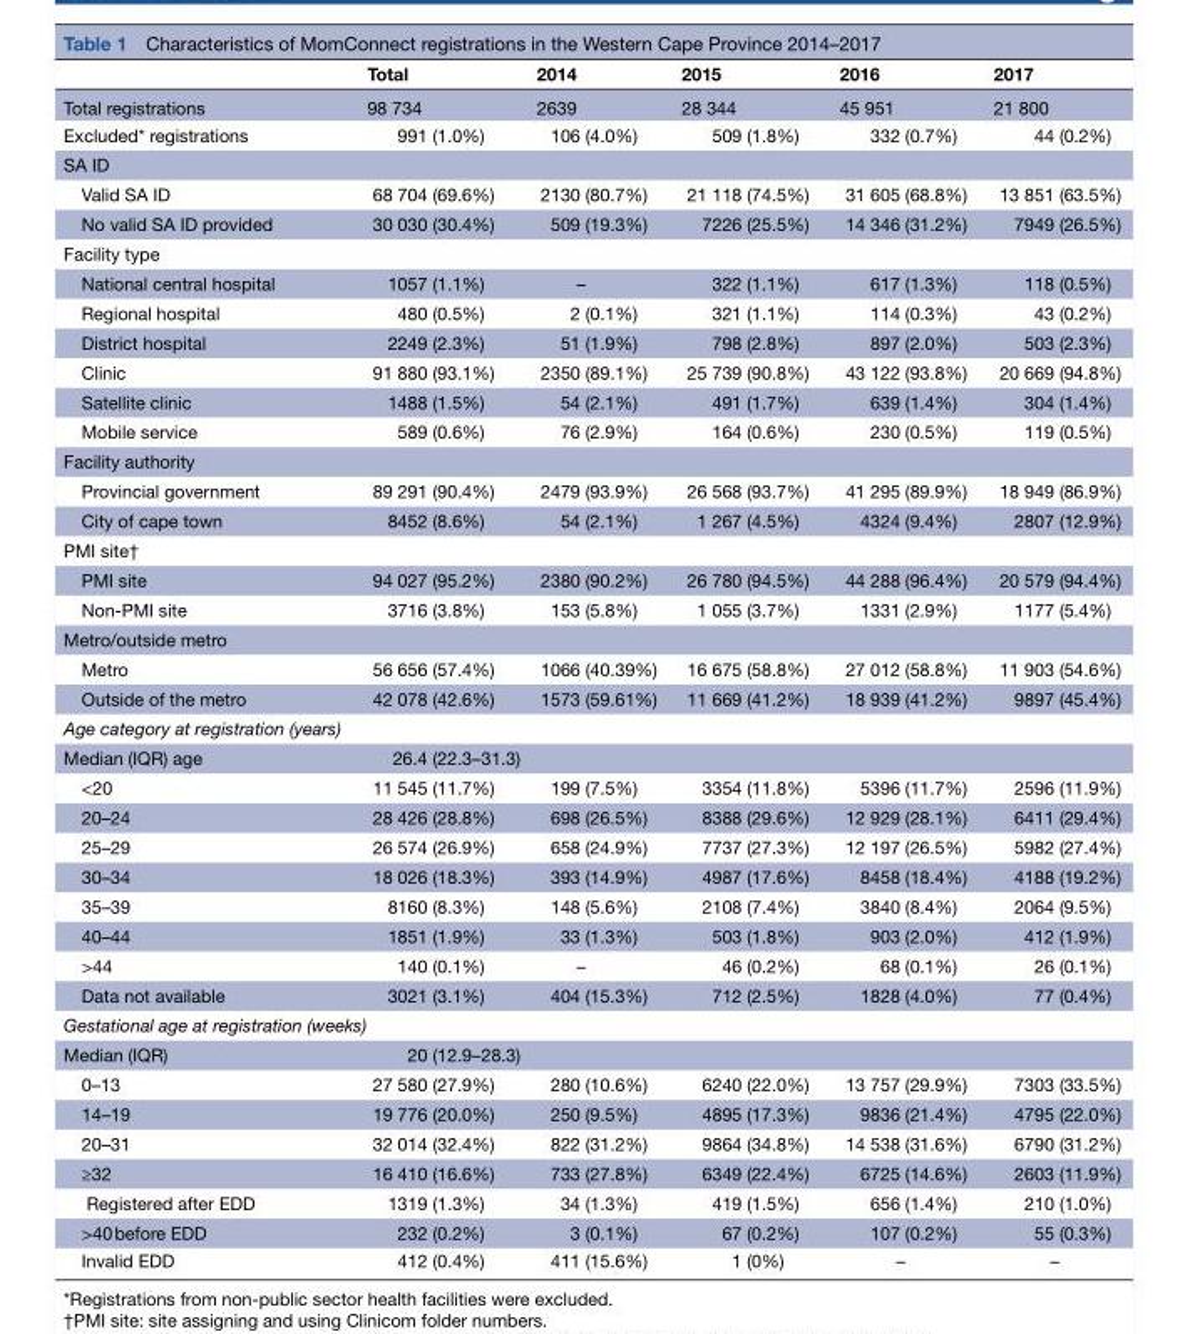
<table><thead><tr><td></td><td>Total</td><td>2014</td><td>2015</td><td>2016</td><td>2017</td></tr></thead><tbody><tr><td>Total registrations</td><td>98 734</td><td>2639</td><td>28 344</td><td>45 951</td><td>21 800</td></tr><tr><td>Excluded* registrations</td><td>991 (1.0%)</td><td>106 (4.0%)</td><td>509 (1.8%)</td><td>332 (0.7%)</td><td>44 (0.2%)</td></tr><tr><td colspan="6">SA ID</td></tr><tr><td>Valid SA ID</td><td>68 704 (69.6%)</td><td>2130 (80.7%)</td><td>21 118 (74.5%)</td><td>31 605 (68.8%)</td><td>13 851 (63.5%)</td></tr><tr><td>No valid SA ID provided</td><td>30 030 (30.4%)</td><td>509 (19.3%)</td><td>7226 (25.5%)</td><td>14 346 (31.2%)</td><td>7949 (26.5%)</td></tr><tr><td colspan="6">Facility type</td></tr><tr><td>National central hospital</td><td>1057 (1.1%)</td><td>–</td><td>322 (1.1%)</td><td>617 (1.3%)</td><td>118 (0.5%)</td></tr><tr><td>Regional hospital</td><td>480 (0.5%)</td><td>2 (0.1%)</td><td>321 (1.1%)</td><td>114 (0.3%)</td><td>43 (0.2%)</td></tr><tr><td>District hospital</td><td>2249 (2.3%)</td><td>51 (1.9%)</td><td>798 (2.8%)</td><td>897 (2.0%)</td><td>503 (2.3%)</td></tr><tr><td>Clinic</td><td>91 880 (93.1%)</td><td>2350 (89.1%)</td><td>25 739 (90.8%)</td><td>43 122 (93.8%)</td><td>20 669 (94.8%)</td></tr><tr><td>Satellite clinic</td><td>1488 (1.5%)</td><td>54 (2.1%)</td><td>491 (1.7%)</td><td>639 (1.4%)</td><td>304 (1.4%)</td></tr><tr><td>Mobile service</td><td>589 (0.6%)</td><td>76 (2.9%)</td><td>164 (0.6%)</td><td>230 (0.5%)</td><td>119 (0.5%)</td></tr><tr><td colspan="6">Facility authority</td></tr><tr><td>Provincial government</td><td>89 291 (90.4%)</td><td>2479 (93.9%)</td><td>26 568 (93.7%)</td><td>41 295 (89.9%)</td><td>18 949 (86.9%)</td></tr><tr><td>City of cape town</td><td>8452 (8.6%)</td><td>54 (2.1%)</td><td>1 267 (4.5%)</td><td>4324 (9.4%)</td><td>2807 (12.9%)</td></tr><tr><td colspan="6">PMI site†</td></tr><tr><td>PMI site</td><td>94 027 (95.2%)</td><td>2380 (90.2%)</td><td>26 780 (94.5%)</td><td>44 288 (96.4%)</td><td>20 579 (94.4%)</td></tr><tr><td>Non-PMI site</td><td>3716 (3.8%)</td><td>153 (5.8%)</td><td>1 055 (3.7%)</td><td>1331 (2.9%)</td><td>1177 (5.4%)</td></tr><tr><td colspan="6">Metro/outside metro</td></tr><tr><td>Metro</td><td>56 656 (57.4%)</td><td>1066 (40.39%)</td><td>16 675 (58.8%)</td><td>27 012 (58.8%)</td><td>11 903 (54.6%)</td></tr><tr><td>Outside of the metro</td><td>42 078 (42.6%)</td><td>1573 (59.61%)</td><td>11 669 (41.2%)</td><td>18 939 (41.2%)</td><td>9897 (45.4%)</td></tr><tr><td colspan="6">Age category at registration (years)</td></tr><tr><td>Median (IQR) age</td><td>26.4 (22.3–31.3)</td><td></td><td></td><td></td><td></td></tr><tr><td>&lt;20</td><td>11 545 (11.7%)</td><td>199 (7.5%)</td><td>3354 (11.8%)</td><td>5396 (11.7%)</td><td>2596 (11.9%)</td></tr><tr><td>20–24</td><td>28 426 (28.8%)</td><td>698 (26.5%)</td><td>8388 (29.6%)</td><td>12 929 (28.1%)</td><td>6411 (29.4%)</td></tr><tr><td>25–29</td><td>26 574 (26.9%)</td><td>658 (24.9%)</td><td>7737 (27.3%)</td><td>12 197 (26.5%)</td><td>5982 (27.4%)</td></tr><tr><td>30–34</td><td>18 026 (18.3%)</td><td>393 (14.9%)</td><td>4987 (17.6%)</td><td>8458 (18.4%)</td><td>4188 (19.2%)</td></tr><tr><td>35–39</td><td>8160 (8.3%)</td><td>148 (5.6%)</td><td>2108 (7.4%)</td><td>3840 (8.4%)</td><td>2064 (9.5%)</td></tr><tr><td>40–44</td><td>1851 (1.9%)</td><td>33 (1.3%)</td><td>503 (1.8%)</td><td>903 (2.0%)</td><td>412 (1.9%)</td></tr><tr><td>&gt;44</td><td>140 (0.1%)</td><td>–</td><td>46 (0.2%)</td><td>68 (0.1%)</td><td>26 (0.1%)</td></tr><tr><td>Data not available</td><td>3021 (3.1%)</td><td>404 (15.3%)</td><td>712 (2.5%)</td><td>1828 (4.0%)</td><td>77 (0.4%)</td></tr><tr><td colspan="6">Gestational age at registration (weeks)</td></tr><tr><td>Median (IQR)</td><td>20 (12.9–28.3)</td><td></td><td></td><td></td><td></td></tr><tr><td>0–13</td><td>27 580 (27.9%)</td><td>280 (10.6%)</td><td>6240 (22.0%)</td><td>13 757 (29.9%)</td><td>7303 (33.5%)</td></tr><tr><td>14–19</td><td>19 776 (20.0%)</td><td>250 (9.5%)</td><td>4895 (17.3%)</td><td>9836 (21.4%)</td><td>4795 (22.0%)</td></tr><tr><td>20–31</td><td>32 014 (32.4%)</td><td>822 (31.2%)</td><td>9864 (34.8%)</td><td>14 538 (31.6%)</td><td>6790 (31.2%)</td></tr><tr><td>≥32</td><td>16 410 (16.6%)</td><td>733 (27.8%)</td><td>6349 (22.4%)</td><td>6725 (14.6%)</td><td>2603 (11.9%)</td></tr><tr><td>Registered after EDD</td><td>1319 (1.3%)</td><td>34 (1.3%)</td><td>419 (1.5%)</td><td>656 (1.4%)</td><td>210 (1.0%)</td></tr><tr><td>&gt;40 before EDD</td><td>232 (0.2%)</td><td>3 (0.1%)</td><td>67 (0.2%)</td><td>107 (0.2%)</td><td>55 (0.3%)</td></tr><tr><td>Invalid EDD</td><td>412 (0.4%)</td><td>411 (15.6%)</td><td>1 (0%)</td><td>–</td><td>–</td></tr></tbody></table>